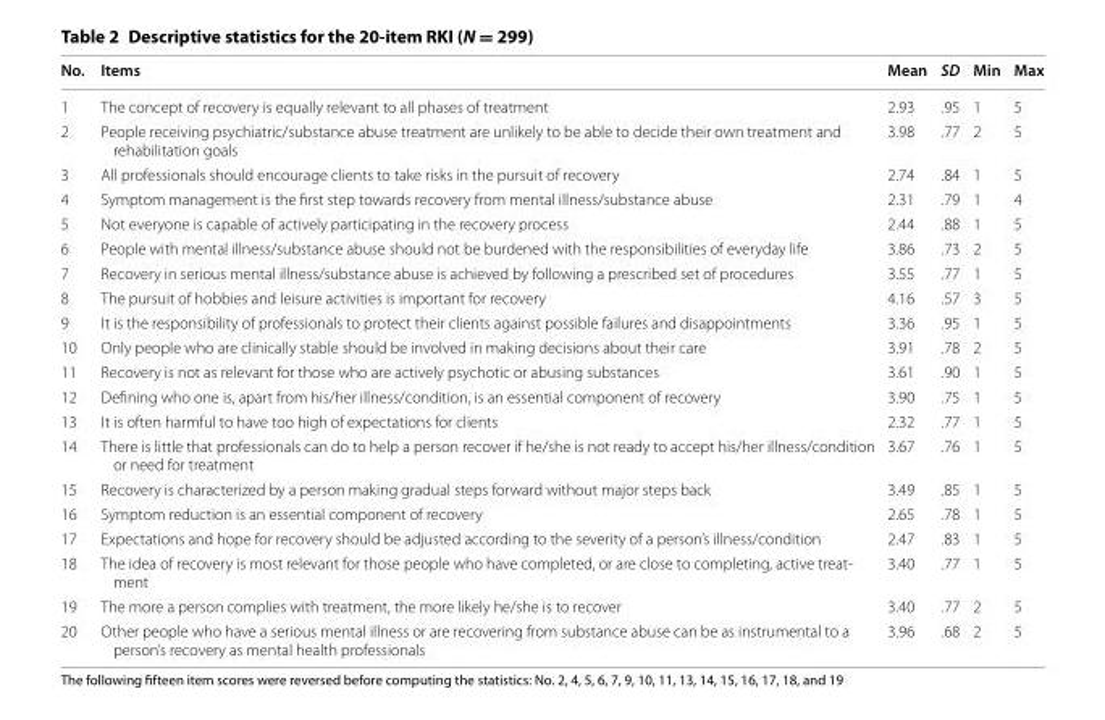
<table><thead><tr><td>No.</td><td>Items</td><td>Mean</td><td>SD</td><td>Min</td><td>Max</td></tr></thead><tbody><tr><td>1</td><td>The concept of recovery is equally relevant to all phases of treatment</td><td>2.93</td><td>.95</td><td>1</td><td>5</td></tr><tr><td>2</td><td>People receiving psychiatric/substance abuse treatment are unlikely to be able to decide their own treatment and rehabilitation goals</td><td>3.98</td><td>.77</td><td>2</td><td>5</td></tr><tr><td>3</td><td>All professionals should encourage clients to take risks in the pursuit of recovery</td><td>2.74</td><td>.84</td><td>1</td><td>5</td></tr><tr><td>4</td><td>Symptom management is the first step towards recovery from mental illness/substance abuse</td><td>2.31</td><td>.79</td><td>1</td><td>4</td></tr><tr><td>5</td><td>Not everyone is capable of actively participating in the recovery process</td><td>2.44</td><td>.88</td><td>1</td><td>5</td></tr><tr><td>6</td><td>People with mental illness/substance abuse should not be burdened with the responsibilities of everyday life</td><td>3.86</td><td>.73</td><td>2</td><td>5</td></tr><tr><td>7</td><td>Recovery in serious mental illness/substance abuse is achieved by following a prescribed set of procedures</td><td>3.55</td><td>.77</td><td>1</td><td>5</td></tr><tr><td>8</td><td>The pursuit of hobbies and leisure activities is important for recovery</td><td>4.16</td><td>.57</td><td>3</td><td>5</td></tr><tr><td>9</td><td>It is the responsibility of professionals to protect their clients against possible failures and disappointments</td><td>3.36</td><td>.95</td><td>1</td><td>5</td></tr><tr><td>10</td><td>Only people who are clinically stable should be involved in making decisions about their care</td><td>3.91</td><td>.78</td><td>2</td><td>5</td></tr><tr><td>11</td><td>Recovery is not as relevant for those who are actively psychotic or abusing substances</td><td>3.61</td><td>.90</td><td>1</td><td>5</td></tr><tr><td>12</td><td>Defining who one is, apart from his/her illness/condition, is an essential component of recovery</td><td>3.90</td><td>.75</td><td>1</td><td>5</td></tr><tr><td>13</td><td>It is often harmful to have too high of expectations for clients</td><td>2.32</td><td>.77</td><td>1</td><td>5</td></tr><tr><td>14</td><td>There is little that professionals can do to help a person recover if he/she is not ready to accept his/her illness/condition or need for treatment</td><td>3.67</td><td>.76</td><td>1</td><td>5</td></tr><tr><td>15</td><td>Recovery is characterized by a person making gradual steps forward without major steps back</td><td>3.49</td><td>.85</td><td>1</td><td>5</td></tr><tr><td>16</td><td>Symptom reduction is an essential component of recovery</td><td>2.65</td><td>.78</td><td>1</td><td>5</td></tr><tr><td>17</td><td>Expectations and hope for recovery should be adjusted according to the severity of a person’s illness/condition</td><td>2.47</td><td>.83</td><td>1</td><td>5</td></tr><tr><td>18</td><td>The idea of recovery is most relevant for those people who have completed, or are close to completing, active treat- ment</td><td>3.40</td><td>.77</td><td>1</td><td>5</td></tr><tr><td>19</td><td>The more a person complies with treatment, the more likely he/she is to recover</td><td>3.40</td><td>.77</td><td>2</td><td>5</td></tr><tr><td>20</td><td>Other people who have a serious mental illness or are recovering from substance abuse can be as instrumental to a person’s recovery as mental health professionals</td><td>3.96</td><td>.68</td><td>2</td><td>5</td></tr></tbody></table>